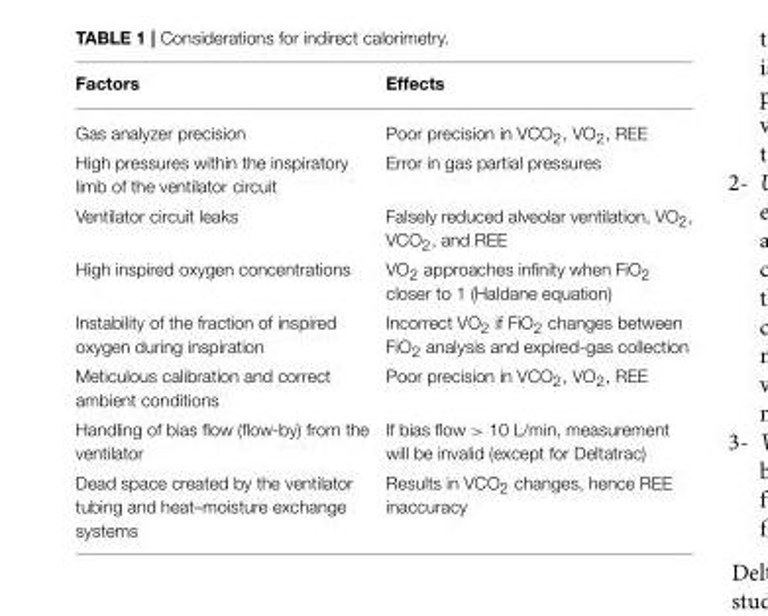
<table><thead><tr><td>Factors</td><td>Effects</td></tr></thead><tbody><tr><td>Gas analyzer precision</td><td>Poor precision in VCO<sub>2</sub>, VO<sub>2</sub>, REE</td></tr><tr><td>High pressures within the inspiratory limb of the ventilator circuit</td><td>Error in gas partial pressures</td></tr><tr><td>Ventilator circuit leaks</td><td>Falsely reduced alveolar ventilation, VO<sub>2</sub>, VCO<sub>2</sub>, and REE</td></tr><tr><td>High inspired oxygen concentrations</td><td>VO<sub>2</sub> approaches infinity when FiO<sub>2</sub> closer to 1 (Haldane equation)</td></tr><tr><td>Instability of the fraction of inspired oxygen during inspiration</td><td>Incorrect VO<sub>2</sub> if FiO<sub>2</sub> changes between FiO<sub>2</sub> analysis and expired-gas collection</td></tr><tr><td>Meticulous calibration and correct ambient conditions</td><td>Poor precision in VCO<sub>2</sub>, VO<sub>2</sub>, REE</td></tr><tr><td>Handling of bias flow (flow-by) from the ventilator</td><td>If bias flow &gt; 10 L/min, measurement will be invalid (except for Deltatrac)</td></tr><tr><td>Dead space created by the ventilator tubing and heat–moisture exchange systems</td><td>Results in VCO<sub>2</sub> changes, hence REE inaccuracy</td></tr></tbody></table>